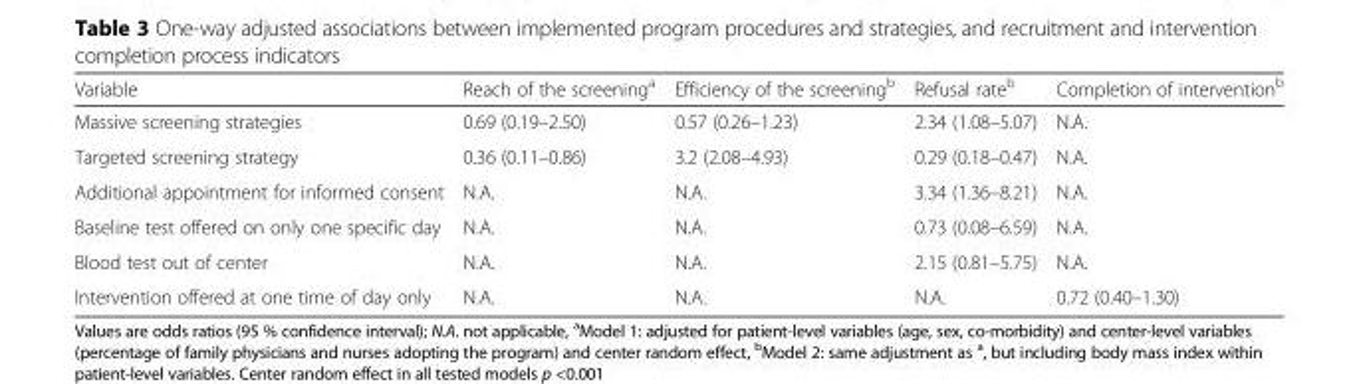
<table><thead><tr><td>Variable</td><td>Reach of the screening<sup>a</sup></td><td>Efficiency of the screening<sup>b</sup></td><td>Refusal rate<sup>b</sup></td><td>Completion of intervention<sup>b</sup></td></tr></thead><tbody><tr><td>Massive screening strategies</td><td>0.69 (0.19–2.50)</td><td>0.57 (0.26–1.23)</td><td>2.34 (1.08–5.07)</td><td>N.A.</td></tr><tr><td>Targeted screening strategy</td><td>0.36 (0.11–0.86)</td><td>3.2 (2.08–4.93)</td><td>0.29 (0.18–0.47)</td><td>N.A.</td></tr><tr><td>Additional appointment for informed consent</td><td>N.A.</td><td>N.A.</td><td>3.34 (1.36–8.21)</td><td>N.A.</td></tr><tr><td>Baseline test offered on only one specific day</td><td>N.A.</td><td>N.A.</td><td>0.73 (0.08–6.59)</td><td>N.A.</td></tr><tr><td>Blood test out of center</td><td>N.A.</td><td>N.A.</td><td>2.15 (0.81–5.75)</td><td>N.A.</td></tr><tr><td>Intervention offered at one time of day only</td><td>N.A.</td><td>N.A.</td><td>N.A.</td><td>0.72 (0.40–1.30)</td></tr></tbody></table>